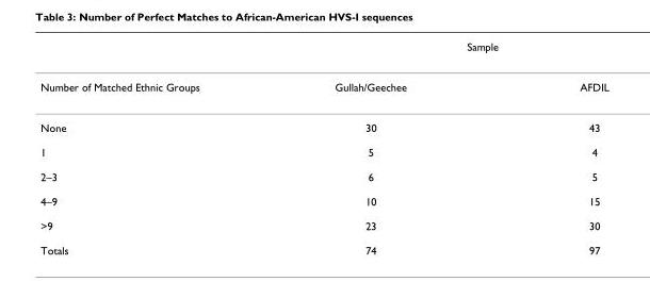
<table><thead><tr><td rowspan="2">Number of Matched Ethnic Groups</td><td colspan="2">Sample</td></tr><tr><td>Gullah/Geechee</td><td>AFDIL</td></tr></thead><tbody><tr><td>None</td><td>30</td><td>43</td></tr><tr><td>1</td><td>5</td><td>4</td></tr><tr><td>2–3</td><td>6</td><td>5</td></tr><tr><td>4–9</td><td>10</td><td>15</td></tr><tr><td>&gt;9</td><td>23</td><td>30</td></tr><tr><td>Totals</td><td>74</td><td>97</td></tr></tbody></table>